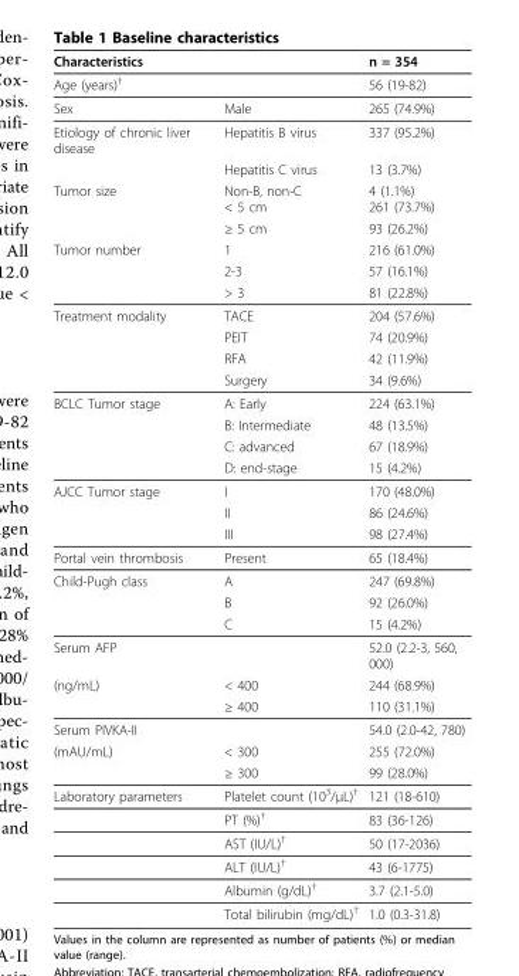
<table><thead><tr><td colspan="2">Characteristics</td><td rowspan="2">n = 354 56 (19-82)</td></tr><tr><td>Age (years)†</td><td></td></tr></thead><tbody><tr><td>Sex</td><td>Male</td><td>265 (74.9%)</td></tr><tr><td rowspan="2">Etiology of chronic liver disease</td><td>Hepatitis B virus</td><td>337 (95.2%)</td></tr><tr><td>Hepatitis C virus</td><td>13 (3.7%)</td></tr><tr><td rowspan="2">Tumor size</td><td>Non-B, non-C &lt; 5 cm</td><td>4 (1.1%) 261 (73.7%)</td></tr><tr><td>≥ 5 cm</td><td>93 (26.2%)</td></tr><tr><td rowspan="3">Tumor number</td><td>1</td><td>216 (61.0%)</td></tr><tr><td>2-3</td><td>57 (16.1%)</td></tr><tr><td>&gt; 3</td><td>81 (22.8%)</td></tr><tr><td rowspan="4">Treatment modality</td><td>TACE</td><td>204 (57.6%)</td></tr><tr><td>PEIT</td><td>74 (20.9%)</td></tr><tr><td>RFA</td><td>42 (11.9%)</td></tr><tr><td>Surgery</td><td>34 (9.6%)</td></tr><tr><td rowspan="4">BCLC Tumor stage</td><td>A: Early</td><td>224 (63.1%)</td></tr><tr><td>B: Intermediate</td><td>48 (13.5%)</td></tr><tr><td>C: advanced</td><td>67 (18.9%)</td></tr><tr><td>D: end-stage</td><td>15 (4.2%)</td></tr><tr><td rowspan="3">AJCC Tumor stage</td><td>I</td><td>170 (48.0%)</td></tr><tr><td>II</td><td>86 (24.6%)</td></tr><tr><td>III</td><td>98 (27.4%)</td></tr><tr><td>Portal vein thrombosis</td><td>Present</td><td>65 (18.4%)</td></tr><tr><td rowspan="3">Child-Pugh class</td><td>A</td><td>247 (69.8%)</td></tr><tr><td>B</td><td>92 (26.0%)</td></tr><tr><td>C</td><td>15 (4.2%)</td></tr><tr><td>Serum AFP</td><td></td><td>52.0 (2.2-3, 560, 000)</td></tr><tr><td rowspan="2">(ng/mL)</td><td>&lt; 400</td><td>244 (68.9%)</td></tr><tr><td>≥ 400</td><td>110 (31.1%)</td></tr><tr><td>Serum PIVKA-II</td><td></td><td>54.0 (2.0-42, 780)</td></tr><tr><td rowspan="2">(mAU/mL)</td><td>&lt; 300</td><td>255 (72.0%)</td></tr><tr><td>≥ 300</td><td>99 (28.0%)</td></tr><tr><td rowspan="6">Laboratory parameters</td><td>Platelet count (10<sup>3</sup>/μL)<sup>†</sup></td><td>121 (18-610)</td></tr><tr><td>PT (%)<sup>†</sup></td><td>83 (36-126)</td></tr><tr><td>AST (IU/L)<sup>†</sup></td><td>50 (17-2036)</td></tr><tr><td>ALT (IU/L)<sup>†</sup></td><td>43 (6-1775)</td></tr><tr><td>Albumin (g/dL)<sup>†</sup></td><td>3.7 (2.1-5.0)</td></tr><tr><td>Total bilirubin (mg/dL)<sup>†</sup></td><td>1.0 (0.3-31.8)</td></tr></tbody></table>